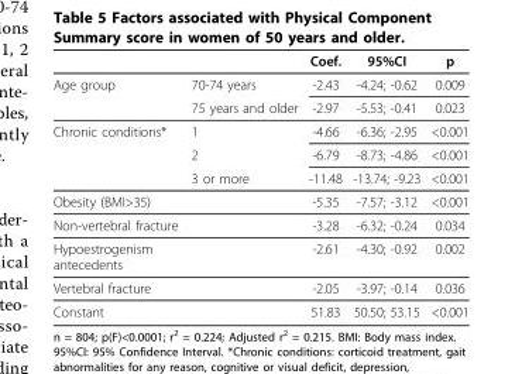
<table><thead><tr><td></td><td></td><td>Coef.</td><td>95%CI</td><td>p</td></tr></thead><tbody><tr><td rowspan="2">Age group</td><td>70-74 years</td><td>-2.43</td><td>-4.24; -0.62</td><td>0.009</td></tr><tr><td>75 years and older</td><td>-2.97</td><td>-5.53; -0.41</td><td>0.023</td></tr><tr><td rowspan="3">Chronic conditions*</td><td>1</td><td>-4.66</td><td>-6.36; -2.95</td><td>&lt;0.001</td></tr><tr><td>2</td><td>-6.79</td><td>-8.73; -4.86</td><td>&lt;0.001</td></tr><tr><td>3 or more</td><td>-11.48</td><td>-13.74; -9.23</td><td>&lt;0.001</td></tr><tr><td>Obesity (BMI&gt;35)</td><td></td><td>-5.35</td><td>-7.57; -3.12</td><td>&lt;0.001</td></tr><tr><td>Non-vertebral fracture</td><td></td><td>-3.28</td><td>-6.32; -0.24</td><td>0.034</td></tr><tr><td>Hypoestrogenism antecedents</td><td></td><td>-2.61</td><td>-4.30; -0.92</td><td>0.002</td></tr><tr><td>Vertebral fracture</td><td></td><td>-2.05</td><td>-3.97; -0.14</td><td>0.036</td></tr><tr><td>Constant</td><td></td><td>51.83</td><td>50.50; 53.15</td><td>&lt;0.001</td></tr></tbody></table>